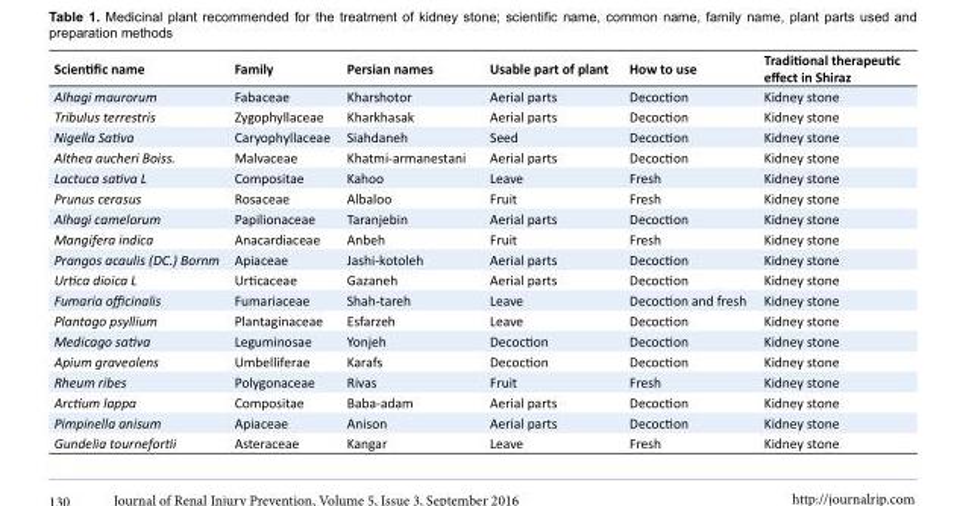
<table><tbody><tr><td>Scientific name</td><td>Family</td><td>Persian names</td><td>Usable part of plant</td><td>How to use</td><td>Traditional therapeutic effect in Shiraz</td></tr><tr><td>Alhagi maurorum</td><td>Fabaceae</td><td>Kharshotor</td><td>Aerial parts</td><td>Decoction</td><td>Kidney stone</td></tr><tr><td>Tribulus terrestris</td><td>Zygophyllaceae</td><td>Kharkhasak</td><td>Aerial parts</td><td>Decoction</td><td>Kidney stone</td></tr><tr><td>Nigella Sativa</td><td>Caryophyllaceae</td><td>Siahdaneh</td><td>Seed</td><td>Decoction</td><td>Kidney stone</td></tr><tr><td>Althea aucheri Boiss.</td><td>Malvaceae</td><td>Khatmi-armanestani</td><td>Aerial parts</td><td>Decoction</td><td>Kidney stone</td></tr><tr><td>Lactuca sativa L</td><td>Compositae</td><td>Kahoo</td><td>Leave</td><td>Fresh</td><td>Kidney stone</td></tr><tr><td>Prunus cerasus</td><td>Rosaceae</td><td>Albaloo</td><td>Fruit</td><td>Fresh</td><td>Kidney stone</td></tr><tr><td>Alhagi camelorum</td><td>Papilionaceae</td><td>Taranjebin</td><td>Aerial parts</td><td>Decoction</td><td>Kidney stone</td></tr><tr><td>Mangifera indica</td><td>Anacardiaceae</td><td>Anbeh</td><td>Fruit</td><td>Fresh</td><td>Kidney stone</td></tr><tr><td>Prangos acaulis (DC.) Bornm</td><td>Apiaceae</td><td>Jashi-kotoleh</td><td>Aerial parts</td><td>Decoction</td><td>Kidney stone</td></tr><tr><td>Urtica dioica L</td><td>Urticaceae</td><td>Gazaneh</td><td>Aerial parts</td><td>Decoction</td><td>Kidney stone</td></tr><tr><td>Fumaria officinalis</td><td>Fumariaceae</td><td>Shah-tareh</td><td>Leave</td><td>Decoction and fresh</td><td>Kidney stone</td></tr><tr><td>Plantago psyllium</td><td>Plantaginaceae</td><td>Esfarzeh</td><td>Leave</td><td>Decoction</td><td>Kidney stone</td></tr><tr><td>Medicago sativa</td><td>Leguminosae</td><td>Yonjeh</td><td>Decoction</td><td>Decoction</td><td>Kidney stone</td></tr><tr><td>Apium graveolens</td><td>Umbelliferae</td><td>Karafs</td><td>Decoction</td><td>Decoction</td><td>Kidney stone</td></tr><tr><td>Rheum ribes</td><td>Polygonaceae</td><td>Rivas</td><td>Fruit</td><td>Fresh</td><td>Kidney stone</td></tr><tr><td>Arctium lappa</td><td>Compositae</td><td>Baba-adam</td><td>Aerial parts</td><td>Decoction</td><td>Kidney stone</td></tr><tr><td>Pimpinella anisum</td><td>Apiaceae</td><td>Anison</td><td>Aerial parts</td><td>Decoction</td><td>Kidney stone</td></tr><tr><td>Gundelia tournefortii</td><td>Asteraceae</td><td>Kangar</td><td>Leave</td><td>Fresh</td><td>Kidney stone</td></tr></tbody></table>